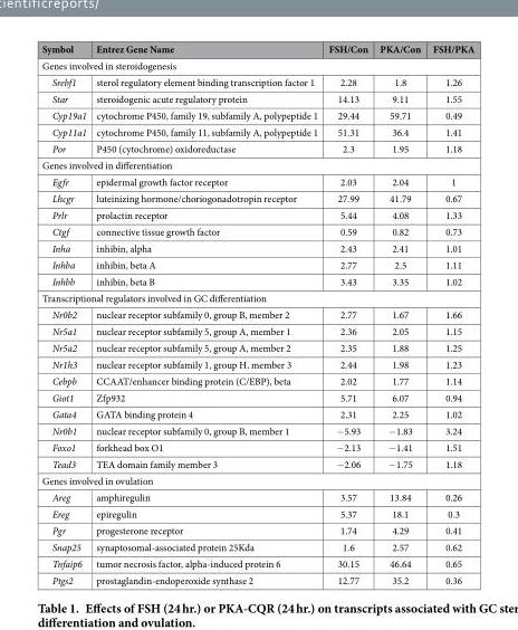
<table><thead><tr><td>Symbol</td><td>Entrez Gene Name</td><td>FSH/Con</td><td>PKA/Con</td><td>FSH/PKA</td></tr></thead><tbody><tr><td colspan="5">Genes involved in steroidogenesis</td></tr><tr><td>Srebf1</td><td>sterol regulatory element binding transcription factor 1</td><td>2.28</td><td>1.8</td><td>1.26</td></tr><tr><td>Star</td><td>steroidogenic acute regulatory protein</td><td>14.13</td><td>9.11</td><td>1.55</td></tr><tr><td>Cyp19a1</td><td>cytochrome P450, family 19, subfamily A, polypeptide 1</td><td>29.44</td><td>59.71</td><td>0.49</td></tr><tr><td>Cyp11a1</td><td>cytochrome P450, family 11, subfamily A, polypeptide 1</td><td>51.31</td><td>36.4</td><td>1.41</td></tr><tr><td>Por</td><td>P450 (cytochrome) oxidoreductase</td><td>2.3</td><td>1.95</td><td>1.18</td></tr><tr><td colspan="5">Genes involved in differentiation</td></tr><tr><td>Egfr</td><td>epidermal growth factor receptor</td><td>2.03</td><td>2.04</td><td>1</td></tr><tr><td>Lhcgr</td><td>luteinizing hormone/choriogonadotropin receptor</td><td>27.99</td><td>41.79</td><td>0.67</td></tr><tr><td>Prlr</td><td>prolactin receptor</td><td>5.44</td><td>4.08</td><td>1.33</td></tr><tr><td>Ctgf</td><td>connective tissue growth factor</td><td>0.59</td><td>0.82</td><td>0.73</td></tr><tr><td>Inha</td><td>inhibin, alpha</td><td>2.43</td><td>2.41</td><td>1.01</td></tr><tr><td>Inhba</td><td>inhibin, beta A</td><td>2.77</td><td>2.5</td><td>1.11</td></tr><tr><td>Inhbb</td><td>inhibin, beta B</td><td>3.43</td><td>3.35</td><td>1.02</td></tr><tr><td colspan="5">Transcriptional regulators involved in GC differentiation</td></tr><tr><td>Nr0b2</td><td>nuclear receptor subfamily 0, group B, member 2</td><td>2.77</td><td>1.67</td><td>1.66</td></tr><tr><td>Nr5a1</td><td>nuclear receptor subfamily 5, group A, member 1</td><td>2.36</td><td>2.05</td><td>1.15</td></tr><tr><td>Nr5a2</td><td>nuclear receptor subfamily 5, group A, member 2</td><td>2.35</td><td>1.88</td><td>1.25</td></tr><tr><td>Nr1h3</td><td>nuclear receptor subfamily 1, group H, member 3</td><td>2.44</td><td>1.98</td><td>1.23</td></tr><tr><td>Cebpb</td><td>CCAAT/enhancer binding protein (C/EBP), beta</td><td>2.02</td><td>1.77</td><td>1.14</td></tr><tr><td>Giot1</td><td>Zfp932</td><td>5.71</td><td>6.07</td><td>0.94</td></tr><tr><td>Gata4</td><td>GATA binding protein 4</td><td>2.31</td><td>2.25</td><td>1.02</td></tr><tr><td>Nr0b1</td><td>nuclear receptor subfamily 0, group B, member 1</td><td>− 5.93</td><td>− 1.83</td><td>3.24</td></tr><tr><td>Foxo1</td><td>forkhead box O1</td><td>− 2.13</td><td>− 1.41</td><td>1.51</td></tr><tr><td>Tead3</td><td>TEA domain family member 3</td><td>− 2.06</td><td>− 1.75</td><td>1.18</td></tr><tr><td colspan="5">Genes involved in ovulation</td></tr><tr><td>Areg</td><td>amphiregulin</td><td>3.57</td><td>13.84</td><td>0.26</td></tr><tr><td>Ereg</td><td>epiregulin</td><td>5.37</td><td>18.1</td><td>0.3</td></tr><tr><td>Pgr</td><td>progesterone receptor</td><td>1.74</td><td>4.29</td><td>0.41</td></tr><tr><td>Snap25</td><td>synaptosomal-associated protein 25Kda</td><td>1.6</td><td>2.57</td><td>0.62</td></tr><tr><td>Tnfaip6</td><td>tumor necrosis factor, alpha-induced protein 6</td><td>30.15</td><td>46.64</td><td>0.65</td></tr><tr><td>Ptgs2</td><td>prostaglandin-endoperoxide synthase 2</td><td>12.77</td><td>35.2</td><td>0.36</td></tr></tbody></table>